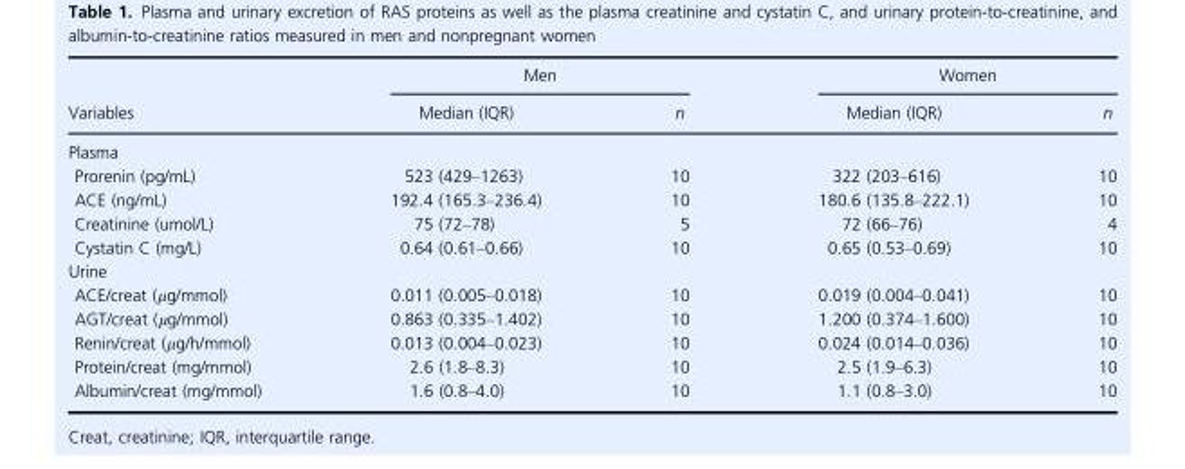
<table><thead><tr><td rowspan="2">Variables</td><td colspan="2">Men</td><td colspan="2">Women</td></tr><tr><td>Median (IQR)</td><td>n</td><td>Median (IQR)</td><td>n</td></tr></thead><tbody><tr><td colspan="5">Plasma</td></tr><tr><td>Prorenin (pg/mL)</td><td>523 (429–1263)</td><td>10</td><td>322 (203–616)</td><td>10</td></tr><tr><td>ACE (ng/mL)</td><td>192.4 (165.3–236.4)</td><td>10</td><td>180.6 (135.8–222.1)</td><td>10</td></tr><tr><td>Creatinine (umol/L)</td><td>75 (72–78)</td><td>5</td><td>72 (66–76)</td><td>4</td></tr><tr><td>Cystatin C (mg/L)</td><td>0.64 (0.61–0.66)</td><td>10</td><td>0.65 (0.53–0.69)</td><td>10</td></tr><tr><td colspan="5">Urine</td></tr><tr><td>ACE/creat (μg/mmol)</td><td>0.011 (0.005–0.018)</td><td>10</td><td>0.019 (0.004–0.041)</td><td>10</td></tr><tr><td>AGT/creat (μg/mmol)</td><td>0.863 (0.335–1.402)</td><td>10</td><td>1.200 (0.374–1.600)</td><td>10</td></tr><tr><td>Renin/creat (μg/h/mmol)</td><td>0.013 (0.004–0.023)</td><td>10</td><td>0.024 (0.014–0.036)</td><td>10</td></tr><tr><td>Protein/creat (mg/mmol)</td><td>2.6 (1.8–8.3)</td><td>10</td><td>2.5 (1.9–6.3)</td><td>10</td></tr><tr><td>Albumin/creat (mg/mmol)</td><td>1.6 (0.8–4.0)</td><td>10</td><td>1.1 (0.8–3.0)</td><td>10</td></tr></tbody></table>